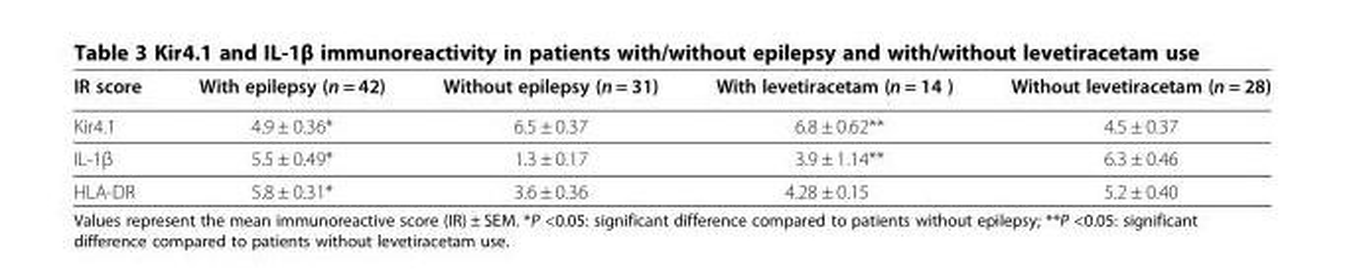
<table><thead><tr><td>IR score</td><td>With epilepsy (n = 42)</td><td>Without epilepsy (n = 31)</td><td>With levetiracetam (n = 14 )</td><td>Without levetiracetam (n = 28)</td></tr></thead><tbody><tr><td>Kir4.1</td><td>4.9 ± 0.36*</td><td>6.5 ± 0.37</td><td>6.8 ± 0.62**</td><td>4.5 ± 0.37</td></tr><tr><td>IL-1β</td><td>5.5 ± 0.49*</td><td>1.3 ± 0.17</td><td>3.9 ± 1.14**</td><td>6.3 ± 0.46</td></tr><tr><td>HLA-DR</td><td>5.8 ± 0.31*</td><td>3.6 ± 0.36</td><td>4.28 ± 0.15</td><td>5.2 ± 0.40</td></tr></tbody></table>